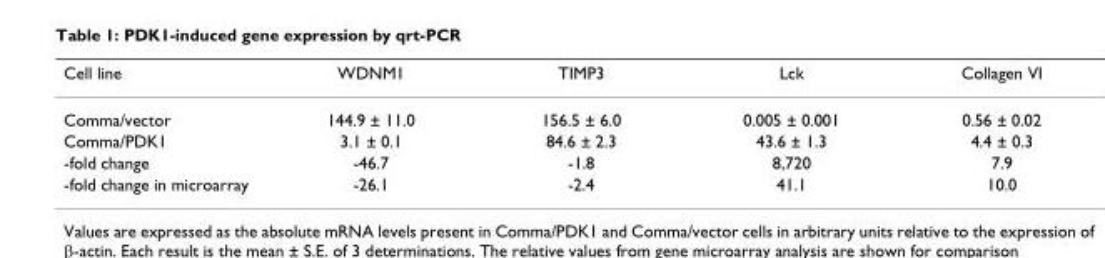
<table><thead><tr><td>Cell line</td><td>WDNM1</td><td>TIMP3</td><td>Lck</td><td>Collagen VI</td></tr></thead><tbody><tr><td>Comma/vector</td><td>144.9 ± 11.0</td><td>156.5 ± 6.0</td><td>0.005 ± 0.001</td><td>0.56 ± 0.02</td></tr><tr><td>Comma/PDK1</td><td>3.1 ± 0.1</td><td>84.6 ± 2.3</td><td>43.6 ± 1.3</td><td>4.4 ± 0.3</td></tr><tr><td>-fold change</td><td>-46.7</td><td>-1.8</td><td>8,720</td><td>7.9</td></tr><tr><td>-fold change in microarray</td><td>-26.1</td><td>-2.4</td><td>41.1</td><td>10.0</td></tr></tbody></table>